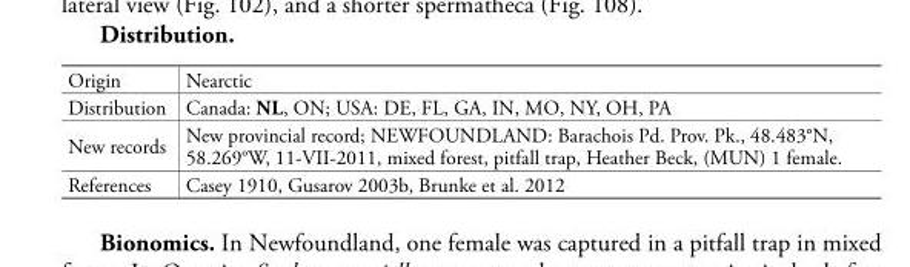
<table><tbody><tr><td>Origin</td><td>Nearctic</td></tr><tr><td>Distribution</td><td>Canada: NL, ON; USA: DE, FL, GA, IN, MO, NY, OH, PA</td></tr><tr><td>New records</td><td>New provincial record; NEWFOUNDLAND: Barachois Pd. Prov. Pk., 48.483°N, 58.269°W, 11-VII-2011, mixed forest, pitfall trap, Heather Beck, (MUN) 1 female.</td></tr><tr><td>References</td><td>Casey 1910, Gusarov 2003b, Brunke et al. 2012</td></tr></tbody></table>